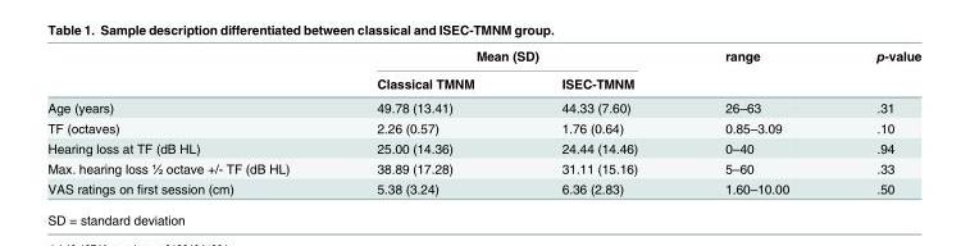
<table><thead><tr><td rowspan="2"></td><td colspan="2">Mean (SD)</td><td rowspan="2">range</td><td rowspan="2">p-value</td></tr><tr><td>Classical TMNM</td><td>ISEC-TMNM</td></tr></thead><tbody><tr><td>Age (years)</td><td>49.78 (13.41)</td><td>44.33 (7.60)</td><td>26–63</td><td>.31</td></tr><tr><td>TF (octaves)</td><td>2.26 (0.57)</td><td>1.76 (0.64)</td><td>0.85–3.09</td><td>.10</td></tr><tr><td>Hearing loss at TF (dB HL)</td><td>25.00 (14.36)</td><td>24.44 (14.46)</td><td>0–40</td><td>.94</td></tr><tr><td>Max. hearing loss ½ octave +/- TF (dB HL)</td><td>38.89 (17.28)</td><td>31.11 (15.16)</td><td>5–60</td><td>.33</td></tr><tr><td>VAS ratings on first session (cm)</td><td>5.38 (3.24)</td><td>6.36 (2.83)</td><td>1.60–10.00</td><td>.50</td></tr></tbody></table>